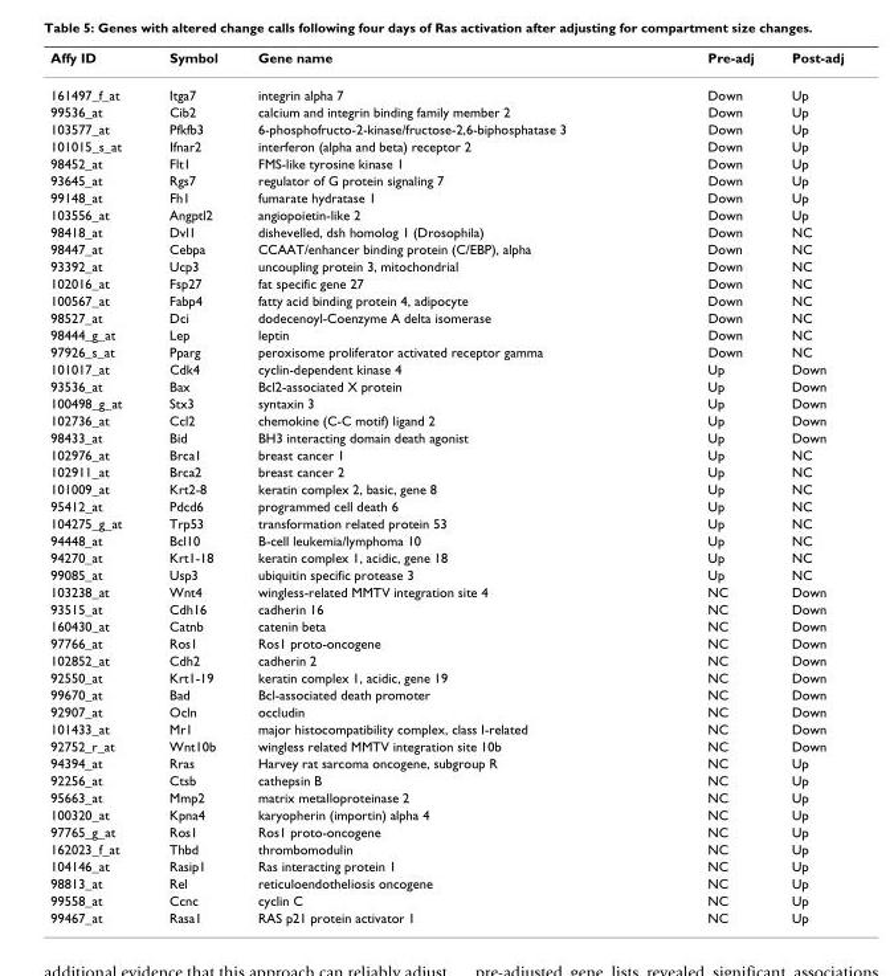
<table><thead><tr><td>Affy ID</td><td>Symbol</td><td>Gene name</td><td>Pre-adj</td><td>Post-adj</td></tr></thead><tbody><tr><td>161497_f_at</td><td>Itga7</td><td>integrin alpha 7</td><td>Down</td><td>Up</td></tr><tr><td>99536_at</td><td>Cib2</td><td>calcium and integrin binding family member 2</td><td>Down</td><td>Up</td></tr><tr><td>103577_at</td><td>Pfkfb3</td><td>6-phosphofructo-2-kinase/fructose-2,6-biphosphatase 3</td><td>Down</td><td>Up</td></tr><tr><td>101015_s_at</td><td>Ifnar2</td><td>interferon (alpha and beta) receptor 2</td><td>Down</td><td>Up</td></tr><tr><td>98452_at</td><td>Flt1</td><td>FMS-like tyrosine kinase 1</td><td>Down</td><td>Up</td></tr><tr><td>93645_at</td><td>Rgs7</td><td>regulator of G protein signaling 7</td><td>Down</td><td>Up</td></tr><tr><td>99148_at</td><td>Fh1</td><td>fumarate hydratase 1</td><td>Down</td><td>Up</td></tr><tr><td>103556_at</td><td>Angptl2</td><td>angiopoietin-like 2</td><td>Down</td><td>Up</td></tr><tr><td>98418_at</td><td>Dvl1</td><td>dishevelled, dsh homolog 1 (Drosophila)</td><td>Down</td><td>NC</td></tr><tr><td>98447_at</td><td>Cebpa</td><td>CCAAT/enhancer binding protein (C/EBP), alpha</td><td>Down</td><td>NC</td></tr><tr><td>93392_at</td><td>Ucp3</td><td>uncoupling protein 3, mitochondrial</td><td>Down</td><td>NC</td></tr><tr><td>102016_at</td><td>Fsp27</td><td>fat specific gene 27</td><td>Down</td><td>NC</td></tr><tr><td>100567_at</td><td>Fabp4</td><td>fatty acid binding protein 4, adipocyte</td><td>Down</td><td>NC</td></tr><tr><td>98527_at</td><td>Dci</td><td>dodecenoyl-Coenzyme A delta isomerase</td><td>Down</td><td>NC</td></tr><tr><td>98444_g_at</td><td>Lep</td><td>leptin</td><td>Down</td><td>NC</td></tr><tr><td>97926_s_at</td><td>Pparg</td><td>peroxisome proliferator activated receptor gamma</td><td>Down</td><td>NC</td></tr><tr><td>101017_at</td><td>Cdk4</td><td>cyclin-dependent kinase 4</td><td>Up</td><td>Down</td></tr><tr><td>93536_at</td><td>Bax</td><td>Bcl2-associated X protein</td><td>Up</td><td>Down</td></tr><tr><td>100498_g_at</td><td>Stx3</td><td>syntaxin 3</td><td>Up</td><td>Down</td></tr><tr><td>102736_at</td><td>Ccl2</td><td>chemokine (C-C motif) ligand 2</td><td>Up</td><td>Down</td></tr><tr><td>98433_at</td><td>Bid</td><td>BH3 interacting domain death agonist</td><td>Up</td><td>Down</td></tr><tr><td>102976_at</td><td>Brca1</td><td>breast cancer 1</td><td>Up</td><td>NC</td></tr><tr><td>102911_at</td><td>Brca2</td><td>breast cancer 2</td><td>Up</td><td>NC</td></tr><tr><td>101009_at</td><td>Krt2-8</td><td>keratin complex 2, basic, gene 8</td><td>Up</td><td>NC</td></tr><tr><td>95412_at</td><td>Pdcd6</td><td>programmed cell death 6</td><td>Up</td><td>NC</td></tr><tr><td>104275_g_at</td><td>Trp53</td><td>transformation related protein 53</td><td>Up</td><td>NC</td></tr><tr><td>94448_at</td><td>Bcl10</td><td>B-cell leukemia/lymphoma 10</td><td>Up</td><td>NC</td></tr><tr><td>94270_at</td><td>Krt1-18</td><td>keratin complex 1, acidic, gene 18</td><td>Up</td><td>NC</td></tr><tr><td>99085_at</td><td>Usp3</td><td>ubiquitin specific protease 3</td><td>Up</td><td>NC</td></tr><tr><td>103238_at</td><td>Wnt4</td><td>wingless-related MMTV integration site 4</td><td>NC</td><td>Down</td></tr><tr><td>93515_at</td><td>Cdh16</td><td>cadherin 16</td><td>NC</td><td>Down</td></tr><tr><td>160430_at</td><td>Catnb</td><td>catenin beta</td><td>NC</td><td>Down</td></tr><tr><td>97766_at</td><td>Ros1</td><td>Ros1 proto-oncogene</td><td>NC</td><td>Down</td></tr><tr><td>102852_at</td><td>Cdh2</td><td>cadherin 2</td><td>NC</td><td>Down</td></tr><tr><td>92550_at</td><td>Krt1-19</td><td>keratin complex 1, acidic, gene 19</td><td>NC</td><td>Down</td></tr><tr><td>99670_at</td><td>Bad</td><td>Bcl-associated death promoter</td><td>NC</td><td>Down</td></tr><tr><td>92907_at</td><td>Ocln</td><td>occludin</td><td>NC</td><td>Down</td></tr><tr><td>101433_at</td><td>Mr1</td><td>major histocompatibility complex, class I-related</td><td>NC</td><td>Down</td></tr><tr><td>92752_r_at</td><td>Wnt10b</td><td>wingless related MMTV integration site 10b</td><td>NC</td><td>Down</td></tr><tr><td>94394_at</td><td>Rras</td><td>Harvey rat sarcoma oncogene, subgroup R</td><td>NC</td><td>Up</td></tr><tr><td>92256_at</td><td>Ctsb</td><td>cathepsin B</td><td>NC</td><td>Up</td></tr><tr><td>95663_at</td><td>Mmp2</td><td>matrix metalloproteinase 2</td><td>NC</td><td>Up</td></tr><tr><td>100320_at</td><td>Kpna4</td><td>karyopherin (importin) alpha 4</td><td>NC</td><td>Up</td></tr><tr><td>97765_g_at</td><td>Ros1</td><td>Ros1 proto-oncogene</td><td>NC</td><td>Up</td></tr><tr><td>162023_f_at</td><td>Thbd</td><td>thrombomodulin</td><td>NC</td><td>Up</td></tr><tr><td>104146_at</td><td>Rasip1</td><td>Ras interacting protein 1</td><td>NC</td><td>Up</td></tr><tr><td>98813_at</td><td>Rel</td><td>reticuloendotheliosis oncogene</td><td>NC</td><td>Up</td></tr><tr><td>99558_at</td><td>Ccnc</td><td>cyclin C</td><td>NC</td><td>Up</td></tr><tr><td>99467_at</td><td>Rasa1</td><td>RAS p21 protein activator 1</td><td>NC</td><td>Up</td></tr></tbody></table>